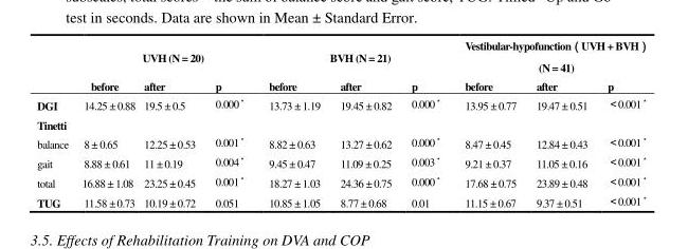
<table><thead><tr><td rowspan="2"></td><td colspan="3">UVH (N = 20)</td><td colspan="3">BVH (N = 21)</td><td colspan="3">Vestibular-hypofunction（UVH + BVH） (N = 41)</td></tr><tr><td>before</td><td>after</td><td>p</td><td>before</td><td>after</td><td>p</td><td>before</td><td>after</td><td>p</td></tr></thead><tbody><tr><td>DGI</td><td>14.25 ± 0.88</td><td>19.5 ± 0.5</td><td>0.000＊</td><td>13.73 ± 1.19</td><td>19.45 ± 0.82</td><td>0.000＊</td><td>13.95 ± 0.77</td><td>19.47 ± 0.51</td><td>＜0.001＊</td></tr><tr><td colspan="10">Tinetti</td></tr><tr><td>balance</td><td>8 ± 0.65</td><td>12.25 ± 0.53</td><td>0.001＊</td><td>8.82 ± 0.63</td><td>13.27 ± 0.62</td><td>0.000＊</td><td>8.47 ± 0.45</td><td>12.84 ± 0.43</td><td>＜0.001＊</td></tr><tr><td>gait</td><td>8.88 ± 0.61</td><td>11 ± 0.19</td><td>0.004＊</td><td>9.45 ± 0.47</td><td>11.09 ± 0.25</td><td>0.003＊</td><td>9.21 ± 0.37</td><td>11.05 ± 0.16</td><td>＜0.001＊</td></tr><tr><td>total</td><td>16.88 ± 1.08</td><td>23.25 ± 0.45</td><td>0.001＊</td><td>18.27 ± 1.03</td><td>24.36 ± 0.75</td><td>0.000＊</td><td>17.68 ± 0.75</td><td>23.89 ± 0.48</td><td>＜0.001＊</td></tr><tr><td>TUG</td><td>11.58 ± 0.73</td><td>10.19 ± 0.72</td><td>0.051</td><td>10.85 ± 1.05</td><td>8.77 ± 0.68</td><td>0.01</td><td>11.15 ± 0.67</td><td>9.37 ± 0.51</td><td>＜0.001＊</td></tr></tbody></table>